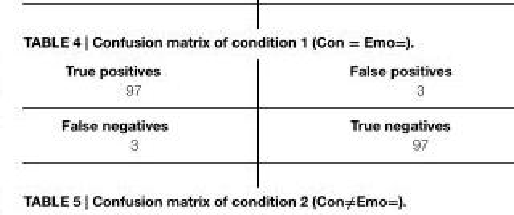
<table><tbody><tr><td>True positives</td><td>False positives</td></tr><tr><td>97</td><td>3</td></tr><tr><td>False negatives</td><td>True negatives</td></tr><tr><td>3</td><td>97</td></tr></tbody></table>